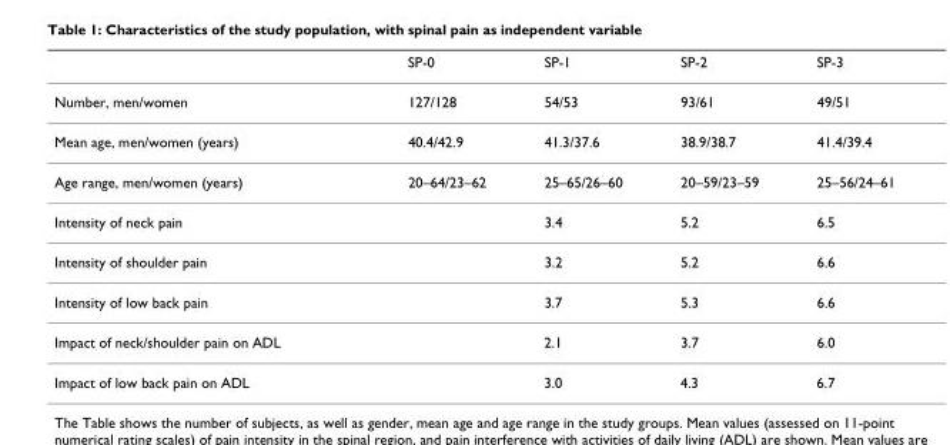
<table><thead><tr><td></td><td>SP-0</td><td>SP-1</td><td>SP-2</td><td>SP-3</td></tr></thead><tbody><tr><td>Number, men/women</td><td>127/128</td><td>54/53</td><td>93/61</td><td>49/51</td></tr><tr><td>Mean age, men/women (years)</td><td>40.4/42.9</td><td>41.3/37.6</td><td>38.9/38.7</td><td>41.4/39.4</td></tr><tr><td>Age range, men/women (years)</td><td>20–64/23–62</td><td>25–65/26–60</td><td>20–59/23–59</td><td>25–56/24–61</td></tr><tr><td>Intensity of neck pain</td><td></td><td>3.4</td><td>5.2</td><td>6.5</td></tr><tr><td>Intensity of shoulder pain</td><td></td><td>3.2</td><td>5.2</td><td>6.6</td></tr><tr><td>Intensity of low back pain</td><td></td><td>3.7</td><td>5.3</td><td>6.6</td></tr><tr><td>Impact of neck/shoulder pain on ADL</td><td></td><td>2.1</td><td>3.7</td><td>6.0</td></tr><tr><td>Impact of low back pain on ADL</td><td></td><td>3.0</td><td>4.3</td><td>6.7</td></tr></tbody></table>